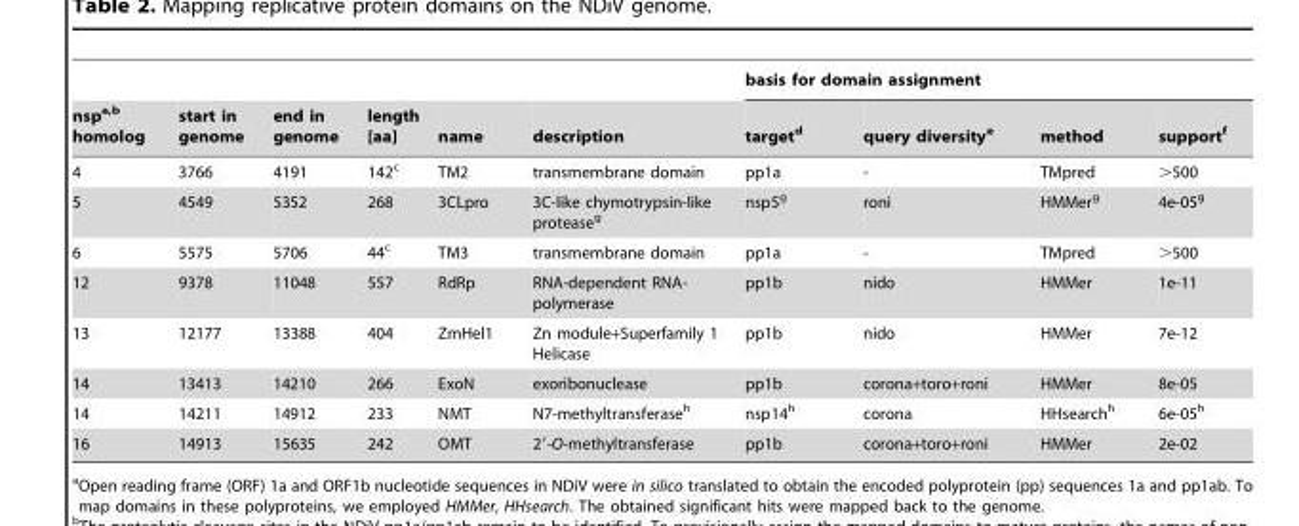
<table><thead><tr><td rowspan="2">nsp<sup>a,</sup>b homolog</td><td rowspan="2">start in genome</td><td rowspan="2">end in genome</td><td rowspan="2">length [aa]</td><td rowspan="2">name</td><td rowspan="2">description</td><td colspan="4">basis for domain assignment</td></tr><tr><td>target<sup>d</sup></td><td>query diversity<sup>e</sup></td><td>method</td><td>support<sup>f</sup></td></tr></thead><tbody><tr><td>4</td><td>3766</td><td>4191</td><td>142<sup>c</sup></td><td>TM2</td><td>transmembrane domain</td><td>pp1a</td><td>-</td><td>TMpred</td><td>&gt;500</td></tr><tr><td>5</td><td>4549</td><td>5352</td><td>268</td><td>3CLpro</td><td>3C-like chymotrypsin-like protease<sup>g</sup></td><td>nsp5<sup>g</sup></td><td>roni</td><td>HMMer<sup>g</sup></td><td>4e-05<sup>g</sup></td></tr><tr><td>6</td><td>5575</td><td>5706</td><td>44<sup>c</sup></td><td>TM3</td><td>transmembrane domain</td><td>pp1a</td><td>-</td><td>TMpred</td><td>&gt;500</td></tr><tr><td>12</td><td>9378</td><td>11048</td><td>557</td><td>RdRp</td><td>RNA-dependent RNA- polymerase</td><td>pp1b</td><td>nido</td><td>HMMer</td><td>1e-11</td></tr><tr><td>13</td><td>12177</td><td>13388</td><td>404</td><td>ZmHel1</td><td>Zn module+Superfamily 1 Helicase</td><td>pp1b</td><td>nido</td><td>HMMer</td><td>7e-12</td></tr><tr><td>14</td><td>13413</td><td>14210</td><td>266</td><td>ExoN</td><td>exoribonuclease</td><td>pp1b</td><td>corona+toro+roni</td><td>HMMer</td><td>8e-05</td></tr><tr><td>14</td><td>14211</td><td>14912</td><td>233</td><td>NMT</td><td>N7-methyltransferase<sup>h</sup></td><td>nsp14<sup>h</sup></td><td>corona</td><td>HHsearch<sup>h</sup></td><td>6e-05<sup>h</sup></td></tr><tr><td>16</td><td>14913</td><td>15635</td><td>242</td><td>OMT</td><td>2′-O-methyltransferase</td><td>pp1b</td><td>corona+toro+roni</td><td>HMMer</td><td>2e-02</td></tr></tbody></table>